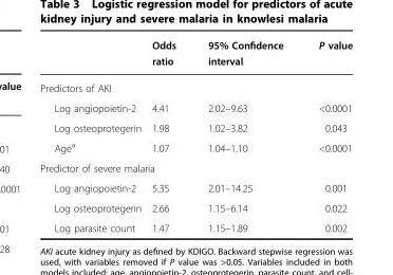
<table><thead><tr><td></td><td>Odds ratio</td><td>95% Confidence interval</td><td>P value</td></tr></thead><tbody><tr><td colspan="4">Predictors of AKI</td></tr><tr><td>Log angiopoietin-2</td><td>4.41</td><td>2.02–9.63</td><td>&lt;0.0001</td></tr><tr><td>Log osteoprotegerin</td><td>1.98</td><td>1.02–3.82</td><td>0.043</td></tr><tr><td>Age<sup>a</sup></td><td>1.07</td><td>1.04–1.10</td><td>&lt;0.0001</td></tr><tr><td colspan="4">Predictor of severe malaria</td></tr><tr><td>Log angiopoietin-2</td><td>5.35</td><td>2.01–14.25</td><td>0.001</td></tr><tr><td>Log osteoprotegerin</td><td>2.66</td><td>1.15–6.14</td><td>0.022</td></tr><tr><td>Log parasite count</td><td>1.47</td><td>1.15–1.89</td><td>0.002</td></tr></tbody></table>